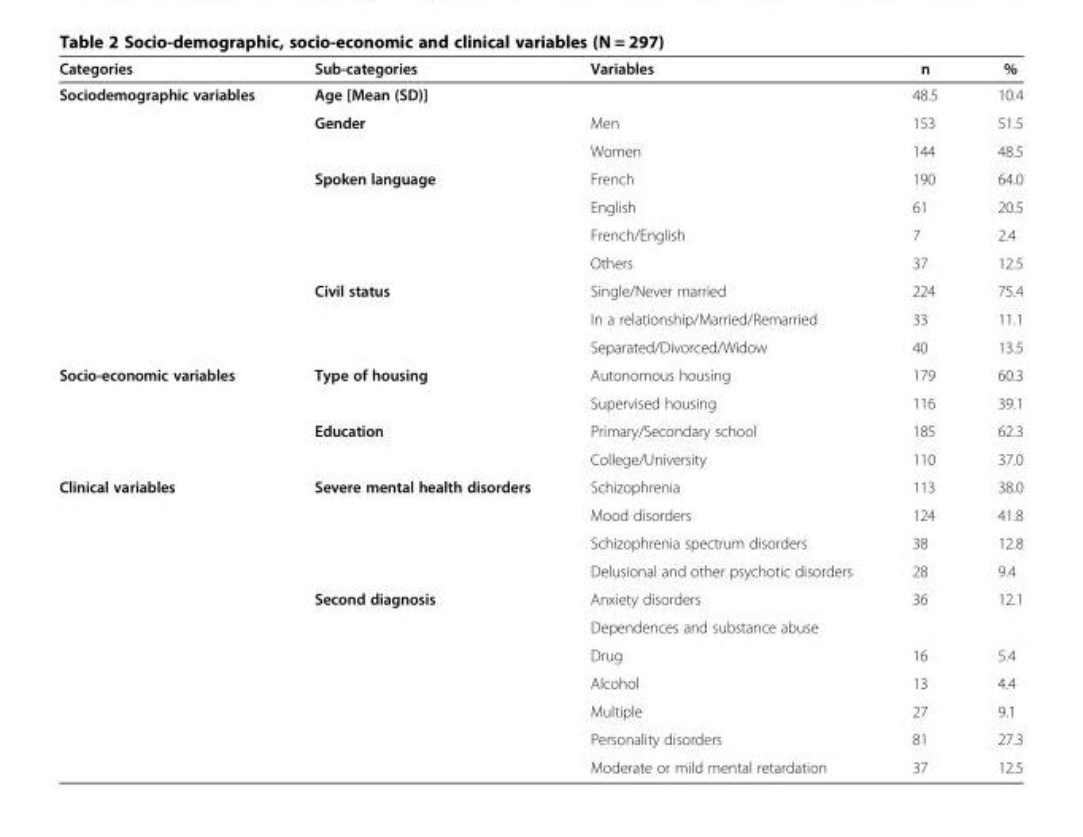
<table><thead><tr><td>Categories</td><td>Sub-categories</td><td>Variables</td><td>n</td><td>%</td></tr></thead><tbody><tr><td rowspan="10">Sociodemographic variables</td><td>Age [Mean (SD)]</td><td></td><td>48.5</td><td>10.4</td></tr><tr><td>Gender</td><td>Men</td><td>153</td><td>51.5</td></tr><tr><td></td><td>Women</td><td>144</td><td>48.5</td></tr><tr><td>Spoken language</td><td>French</td><td>190</td><td>64.0</td></tr><tr><td></td><td>English</td><td>61</td><td>20.5</td></tr><tr><td></td><td>French/English</td><td>7</td><td>2.4</td></tr><tr><td></td><td>Others</td><td>37</td><td>12.5</td></tr><tr><td>Civil status</td><td>Single/Never married</td><td>224</td><td>75.4</td></tr><tr><td></td><td>In a relationship/Married/Remarried</td><td>33</td><td>11.1</td></tr><tr><td></td><td>Separated/Divorced/Widow</td><td>40</td><td>13.5</td></tr><tr><td rowspan="4">Socio-economic variables</td><td>Type of housing</td><td>Autonomous housing</td><td>179</td><td>60.3</td></tr><tr><td></td><td>Supervised housing</td><td>116</td><td>39.1</td></tr><tr><td>Education</td><td>Primary/Secondary school</td><td>185</td><td>62.3</td></tr><tr><td></td><td>College/University</td><td>110</td><td>37.0</td></tr><tr><td rowspan="11">Clinical variables</td><td>Severe mental health disorders</td><td>Schizophrenia</td><td>113</td><td>38.0</td></tr><tr><td></td><td>Mood disorders</td><td>124</td><td>41.8</td></tr><tr><td></td><td>Schizophrenia spectrum disorders</td><td>38</td><td>12.8</td></tr><tr><td></td><td>Delusional and other psychotic disorders</td><td>28</td><td>9.4</td></tr><tr><td>Second diagnosis</td><td>Anxiety disorders</td><td>36</td><td>12.1</td></tr><tr><td></td><td>Dependences and substance abuse</td><td></td><td></td></tr><tr><td></td><td>Drug</td><td>16</td><td>5.4</td></tr><tr><td></td><td>Alcohol</td><td>13</td><td>4.4</td></tr><tr><td></td><td>Multiple</td><td>27</td><td>9.1</td></tr><tr><td></td><td>Personality disorders</td><td>81</td><td>27.3</td></tr><tr><td></td><td>Moderate or mild mental retardation</td><td>37</td><td>12.5</td></tr></tbody></table>